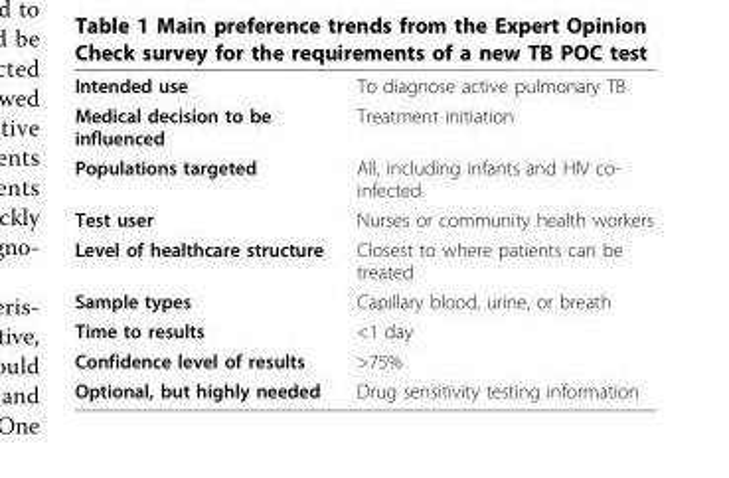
<table><tbody><tr><td>Intended use</td><td>To diagnose active pulmonary TB</td></tr><tr><td>Medical decision to be influenced</td><td>Treatment initiation</td></tr><tr><td>Populations targeted</td><td>All, including infants and HIV co- infected</td></tr><tr><td>Test user</td><td>Nurses or community health workers</td></tr><tr><td>Level of healthcare structure</td><td>Closest to where patients can be treated</td></tr><tr><td>Sample types</td><td>Capillary blood, urine, or breath</td></tr><tr><td>Time to results</td><td>&lt;1 day</td></tr><tr><td>Confidence level of results</td><td>&gt;75%</td></tr><tr><td>Optional, but highly needed</td><td>Drug sensitivity testing information</td></tr></tbody></table>